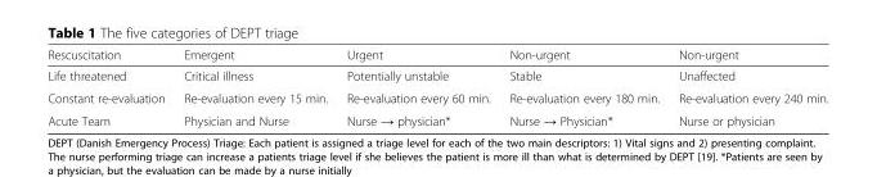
<table><thead><tr><td>Rescuscitation</td><td>Emergent</td><td>Urgent</td><td>Non-urgent</td><td>Non-urgent</td></tr></thead><tbody><tr><td>Life threatened</td><td>Critical illness</td><td>Potentially unstable</td><td>Stable</td><td>Unaffected</td></tr><tr><td>Constant re-evaluation</td><td>Re-evaluation every 15 min.</td><td>Re-evaluation every 60 min.</td><td>Re-evaluation every 180 min.</td><td>Re-evaluation every 240 min.</td></tr><tr><td>Acute Team</td><td>Physician and Nurse</td><td>Nurse → physician*</td><td>Nurse → Physician*</td><td>Nurse or physician</td></tr></tbody></table>